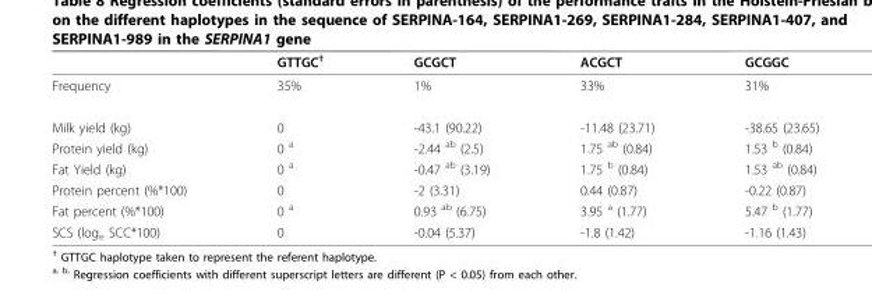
<table><thead><tr><td></td><td>GTTGC<sup>†</sup></td><td>GCGCT</td><td>ACGCT</td><td>GCGGC</td></tr></thead><tbody><tr><td>Frequency</td><td>35%</td><td>1%</td><td>33%</td><td>31%</td></tr><tr><td>Milk yield (kg)</td><td>0</td><td>-43.1 (90.22)</td><td>-11.48 (23.71)</td><td>-38.65 (23.65)</td></tr><tr><td>Protein yield (kg)</td><td>0 <sup>a</sup></td><td>-2.44 <sup>ab</sup> (2.5)</td><td>1.75 <sup>ab</sup> (0.84)</td><td>1.53 <sup>b</sup> (0.84)</td></tr><tr><td>Fat Yield (kg)</td><td>0 <sup>a</sup></td><td>-0.47 <sup>ab</sup> (3.19)</td><td>1.75 <sup>b</sup> (0.84)</td><td>1.53 <sup>ab</sup> (0.84)</td></tr><tr><td>Protein percent (%*100)</td><td>0</td><td>-2 (3.31)</td><td>0.44 (0.87)</td><td>-0.22 (0.87)</td></tr><tr><td>Fat percent (%*100)</td><td>0 <sup>a</sup></td><td>0.93 <sup>ab</sup> (6.75)</td><td>3.95 <sup>a</sup> (1.77)</td><td>5.47 <sup>b</sup> (1.77)</td></tr><tr><td>SCS (log<sub>e</sub> SCC*100)</td><td>0</td><td>-0.04 (5.37)</td><td>-1.8 (1.42)</td><td>-1.16 (1.43)</td></tr></tbody></table>